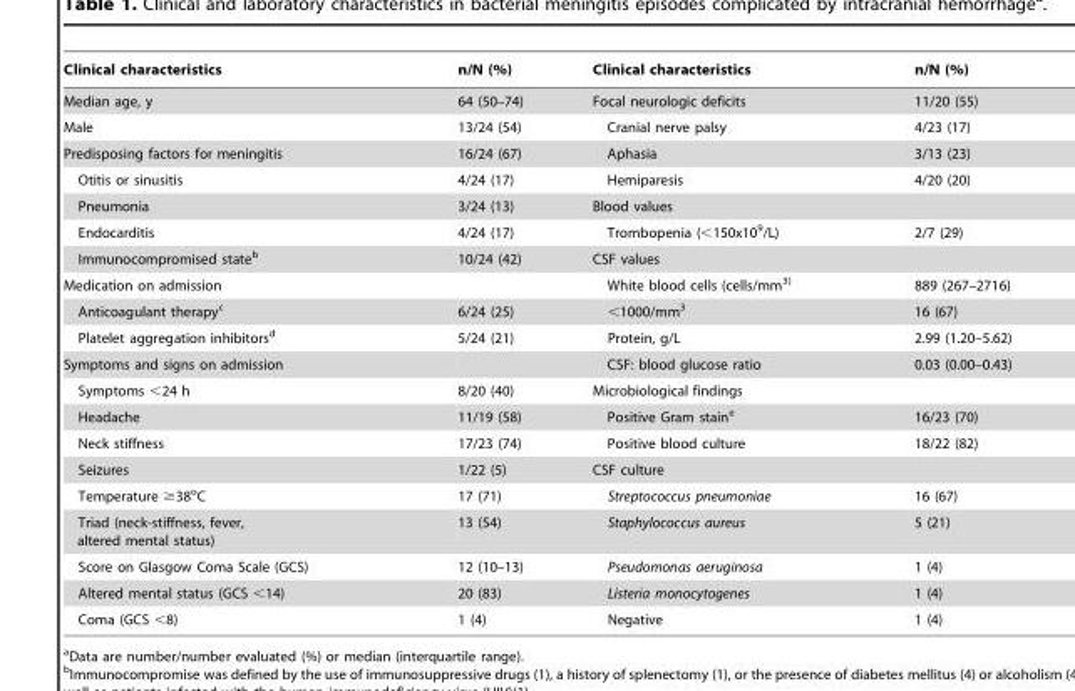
<table><thead><tr><td>Clinical characteristics</td><td>n/N (%)</td><td>Clinical characteristics</td><td>n/N (%)</td></tr></thead><tbody><tr><td>Median age, y</td><td>64 (50–74)</td><td>Focal neurologic deficits</td><td>11/20 (55)</td></tr><tr><td>Male</td><td>13/24 (54)</td><td>Cranial nerve palsy</td><td>4/23 (17)</td></tr><tr><td>Predisposing factors for meningitis</td><td>16/24 (67)</td><td>Aphasia</td><td>3/13 (23)</td></tr><tr><td>Otitis or sinusitis</td><td>4/24 (17)</td><td>Hemiparesis</td><td>4/20 (20)</td></tr><tr><td>Pneumonia</td><td>3/24 (13)</td><td>Blood values</td><td></td></tr><tr><td>Endocarditis</td><td>4/24 (17)</td><td>Trombopenia (&lt;150x10<sup>9</sup>/L)</td><td>2/7 (29)</td></tr><tr><td>Immunocompromised state<sup>b</sup></td><td>10/24 (42)</td><td>CSF values</td><td></td></tr><tr><td>Medication on admission</td><td></td><td>White blood cells (cells/mm<sup>3)</sup></td><td>889 (267–2716)</td></tr><tr><td>Anticoagulant therapy<sup>c</sup></td><td>6/24 (25)</td><td>&lt;1000/mm<sup>3</sup></td><td>16 (67)</td></tr><tr><td>Platelet aggregation inhibitors<sup>d</sup></td><td>5/24 (21)</td><td>Protein, g/L</td><td>2.99 (1.20–5.62)</td></tr><tr><td>Symptoms and signs on admission</td><td></td><td>CSF: blood glucose ratio</td><td>0.03 (0.00–0.43)</td></tr><tr><td>Symptoms &lt;24 h</td><td>8/20 (40)</td><td>Microbiological findings</td><td></td></tr><tr><td>Headache</td><td>11/19 (58)</td><td>Positive Gram stain<sup>e</sup></td><td>16/23 (70)</td></tr><tr><td>Neck stiffness</td><td>17/23 (74)</td><td>Positive blood culture</td><td>18/22 (82)</td></tr><tr><td>Seizures</td><td>1/22 (5)</td><td>CSF culture</td><td></td></tr><tr><td>Temperature ≥38<sup>o</sup>C</td><td>17 (71)</td><td>Streptococcus pneumoniae</td><td>16 (67)</td></tr><tr><td>Triad (neck-stiffness, fever, altered mental status)</td><td>13 (54)</td><td>Staphylococcus aureus</td><td>5 (21)</td></tr><tr><td>Score on Glasgow Coma Scale (GCS)</td><td>12 (10–13)</td><td>Pseudomonas aeruginosa</td><td>1 (4)</td></tr><tr><td>Altered mental status (GCS &lt;14)</td><td>20 (83)</td><td>Listeria monocytogenes</td><td>1 (4)</td></tr><tr><td>Coma (GCS &lt;8)</td><td>1 (4)</td><td>Negative</td><td>1 (4)</td></tr></tbody></table>